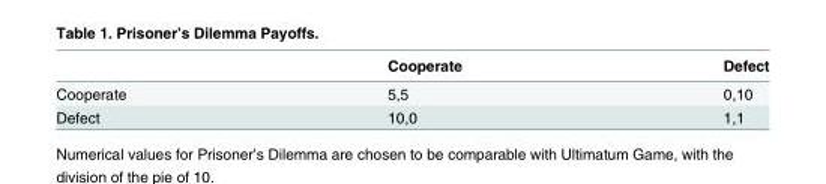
<table><thead><tr><td></td><td>Cooperate</td><td>Defect</td></tr></thead><tbody><tr><td>Cooperate</td><td>5,5</td><td>0,10</td></tr><tr><td>Defect</td><td>10,0</td><td>1,1</td></tr></tbody></table>